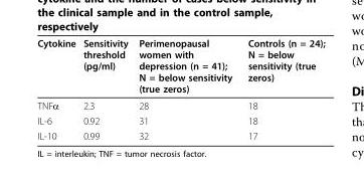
<table><thead><tr><td>Cytokine</td><td>Sensitivity threshold (pg/ml)</td><td>Perimenopausal women with depression (n = 41); N = below sensitivity (true zeros)</td><td>Controls (n = 24); N = below sensitivity (true zeros)</td></tr></thead><tbody><tr><td>TNFα</td><td>2.3</td><td>28</td><td>18</td></tr><tr><td>IL-6</td><td>0.92</td><td>31</td><td>18</td></tr><tr><td>IL-10</td><td>0.99</td><td>32</td><td>17</td></tr></tbody></table>